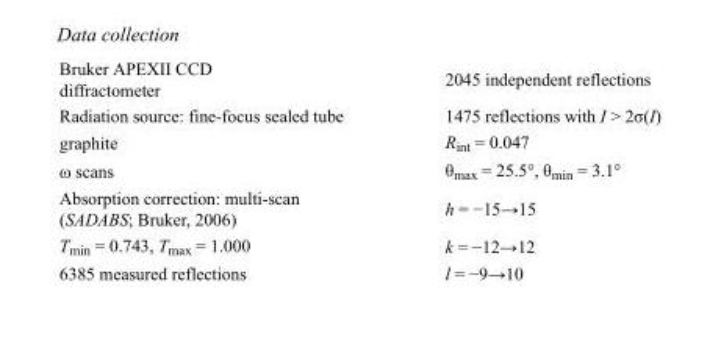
<table><tbody><tr><td>Bruker APEXII CCD diffractometer</td><td>2045 independent reflections</td></tr><tr><td>Radiation source: fine-focus sealed tube</td><td>1475 reflections with I &gt; 2σ(I)</td></tr><tr><td>graphite</td><td>R<sub>int</sub> = 0.047</td></tr><tr><td>ω scans</td><td>θ<sub>max</sub> = 25.5°, θ<sub>min</sub> = 3.1°</td></tr><tr><td>Absorption correction: multi-scan (SADABS; Bruker, 2006)</td><td>h = −15→15</td></tr><tr><td>T<sub>min</sub> = 0.743, T<sub>max</sub> = 1.000</td><td>k = −12→12</td></tr><tr><td>6385 measured reflections</td><td>l = −9→10</td></tr></tbody></table>